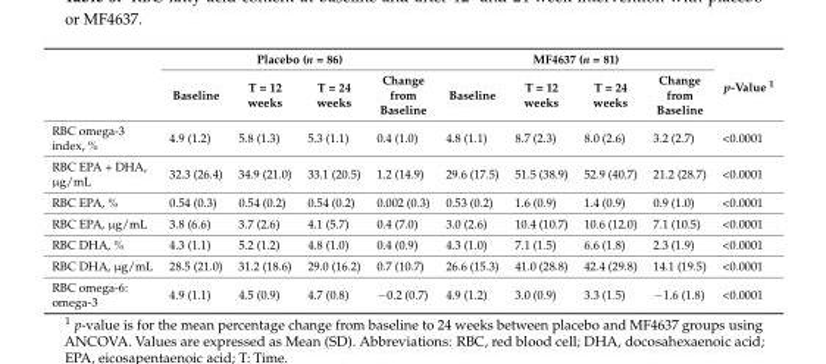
<table><thead><tr><td rowspan="2"></td><td colspan="4">Placebo (n = 86)</td><td colspan="4">MF4637 (n = 81)</td><td rowspan="2">p-Value <sup>1</sup></td></tr><tr><td>Baseline</td><td>T = 12 weeks</td><td>T = 24 weeks</td><td>Change from Baseline</td><td>Baseline</td><td>T = 12 weeks</td><td>T = 24 weeks</td><td>Change from Baseline</td></tr></thead><tbody><tr><td>RBC omega-3 index, %</td><td>4.9 (1.2)</td><td>5.8 (1.3)</td><td>5.3 (1.1)</td><td>0.4 (1.0)</td><td>4.8 (1.1)</td><td>8.7 (2.3)</td><td>8.0 (2.6)</td><td>3.2 (2.7)</td><td>&lt;0.0001</td></tr><tr><td>RBC EPA + DHA, µg/mL</td><td>32.3 (26.4)</td><td>34.9 (21.0)</td><td>33.1 (20.5)</td><td>1.2 (14.9)</td><td>29.6 (17.5)</td><td>51.5 (38.9)</td><td>52.9 (40.7)</td><td>21.2 (28.7)</td><td>&lt;0.0001</td></tr><tr><td>RBC EPA, %</td><td>0.54 (0.3)</td><td>0.54 (0.2)</td><td>0.54 (0.2)</td><td>0.002 (0.3)</td><td>0.53 (0.2)</td><td>1.6 (0.9)</td><td>1.4 (0.9)</td><td>0.9 (1.0)</td><td>&lt;0.0001</td></tr><tr><td>RBC EPA, µg/mL</td><td>3.8 (6.6)</td><td>3.7 (2.6)</td><td>4.1 (5.7)</td><td>0.4 (7.0)</td><td>3.0 (2.6)</td><td>10.4 (10.7)</td><td>10.6 (12.0)</td><td>7.1 (10.5)</td><td>&lt;0.0001</td></tr><tr><td>RBC DHA, %</td><td>4.3 (1.1)</td><td>5.2 (1.2)</td><td>4.8 (1.0)</td><td>0.4 (0.9)</td><td>4.3 (1.0)</td><td>7.1 (1.5)</td><td>6.6 (1.8)</td><td>2.3 (1.9)</td><td>&lt;0.0001</td></tr><tr><td>RBC DHA, µg/mL</td><td>28.5 (21.0)</td><td>31.2 (18.6)</td><td>29.0 (16.2)</td><td>0.7 (10.7)</td><td>26.6 (15.3)</td><td>41.0 (28.8)</td><td>42.4 (29.8)</td><td>14.1 (19.5)</td><td>&lt;0.0001</td></tr><tr><td>RBC omega-6: omega-3</td><td>4.9 (1.1)</td><td>4.5 (0.9)</td><td>4.7 (0.8)</td><td>−0.2 (0.7)</td><td>4.9 (1.2)</td><td>3.0 (0.9)</td><td>3.3 (1.5)</td><td>−1.6 (1.8)</td><td>&lt;0.0001</td></tr></tbody></table>